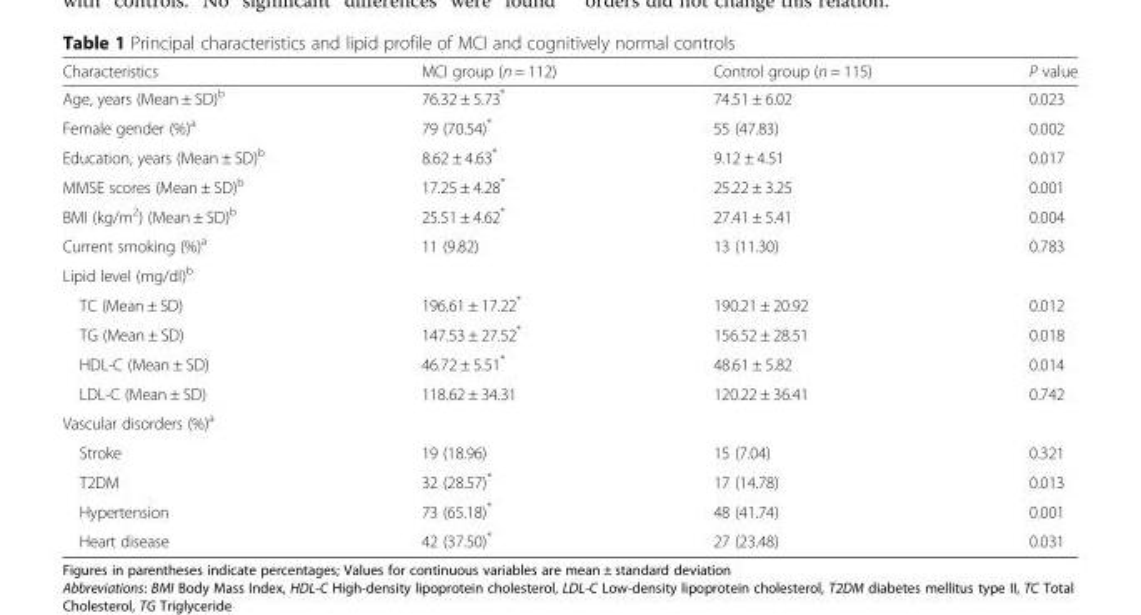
<table><thead><tr><td>Characteristics</td><td>MCI group (n = 112)</td><td>Control group (n = 115)</td><td>P value</td></tr></thead><tbody><tr><td>Age, years (Mean ± SD)<sup>b</sup></td><td>76.32 ± 5.73*</td><td>74.51 ± 6.02</td><td>0.023</td></tr><tr><td>Female gender (%)<sup>a</sup></td><td>79 (70.54)*</td><td>55 (47.83)</td><td>0.002</td></tr><tr><td>Education, years (Mean ± SD)<sup>b</sup></td><td>8.62 ± 4.63*</td><td>9.12 ± 4.51</td><td>0.017</td></tr><tr><td>MMSE scores (Mean ± SD)<sup>b</sup></td><td>17.25 ± 4.28*</td><td>25.22 ± 3.25</td><td>0.001</td></tr><tr><td>BMI (kg/m<sup>2</sup>) (Mean ± SD)<sup>b</sup></td><td>25.51 ± 4.62*</td><td>27.41 ± 5.41</td><td>0.004</td></tr><tr><td>Current smoking (%)<sup>a</sup></td><td>11 (9.82)</td><td>13 (11.30)</td><td>0.783</td></tr><tr><td colspan="4">Lipid level (mg/dl)<sup>b</sup></td></tr><tr><td>TC (Mean ± SD)</td><td>196.61 ± 17.22*</td><td>190.21 ± 20.92</td><td>0.012</td></tr><tr><td>TG (Mean ± SD)</td><td>147.53 ± 27.52*</td><td>156.52 ± 28.51</td><td>0.018</td></tr><tr><td>HDL-C (Mean ± SD)</td><td>46.72 ± 5.51*</td><td>48.61 ± 5.82</td><td>0.014</td></tr><tr><td>LDL-C (Mean ± SD)</td><td>118.62 ± 34.31</td><td>120.22 ± 36.41</td><td>0.742</td></tr><tr><td colspan="4">Vascular disorders (%)<sup>a</sup></td></tr><tr><td>Stroke</td><td>19 (18.96)</td><td>15 (7.04)</td><td>0.321</td></tr><tr><td>T2DM</td><td>32 (28.57)*</td><td>17 (14.78)</td><td>0.013</td></tr><tr><td>Hypertension</td><td>73 (65.18)*</td><td>48 (41.74)</td><td>0.001</td></tr><tr><td>Heart disease</td><td>42 (37.50)*</td><td>27 (23.48)</td><td>0.031</td></tr></tbody></table>